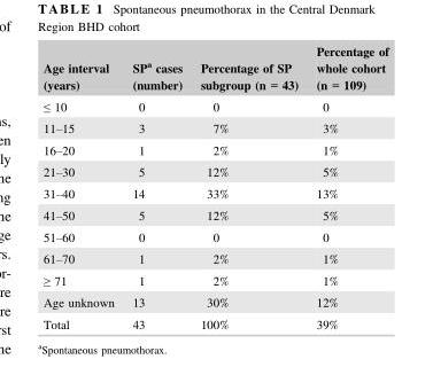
<table><thead><tr><td>Age interval (years)</td><td>SP<sup>a</sup> cases (number)</td><td>Percentage of SP subgroup (n = 43)</td><td>Percentage of whole cohort (n = 109)</td></tr></thead><tbody><tr><td>≤ 10</td><td>0</td><td>0</td><td>0</td></tr><tr><td>11–15</td><td>3</td><td>7%</td><td>3%</td></tr><tr><td>16–20</td><td>1</td><td>2%</td><td>1%</td></tr><tr><td>21–30</td><td>5</td><td>12%</td><td>5%</td></tr><tr><td>31–40</td><td>14</td><td>33%</td><td>13%</td></tr><tr><td>41–50</td><td>5</td><td>12%</td><td>5%</td></tr><tr><td>51–60</td><td>0</td><td>0</td><td>0</td></tr><tr><td>61–70</td><td>1</td><td>2%</td><td>1%</td></tr><tr><td>≥ 71</td><td>1</td><td>2%</td><td>1%</td></tr><tr><td>Age unknown</td><td>13</td><td>30%</td><td>12%</td></tr><tr><td>Total</td><td>43</td><td>100%</td><td>39%</td></tr></tbody></table>